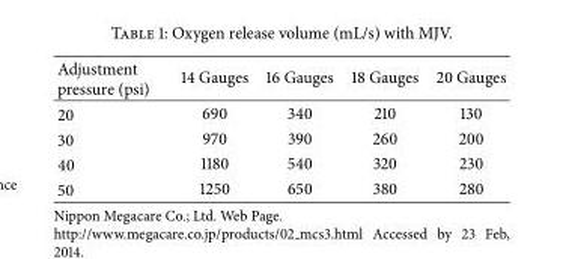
<table><tbody><tr><td>Adjustment pressure (psi)</td><td>14 Gauges</td><td>16 Gauges</td><td>18 Gauges</td><td>20 Gauges</td></tr><tr><td>20</td><td>690</td><td>340</td><td>210</td><td>130</td></tr><tr><td>30</td><td>970</td><td>390</td><td>260</td><td>200</td></tr><tr><td>40</td><td>1180</td><td>540</td><td>320</td><td>230</td></tr><tr><td>50</td><td>1250</td><td>650</td><td>380</td><td>280</td></tr></tbody></table>